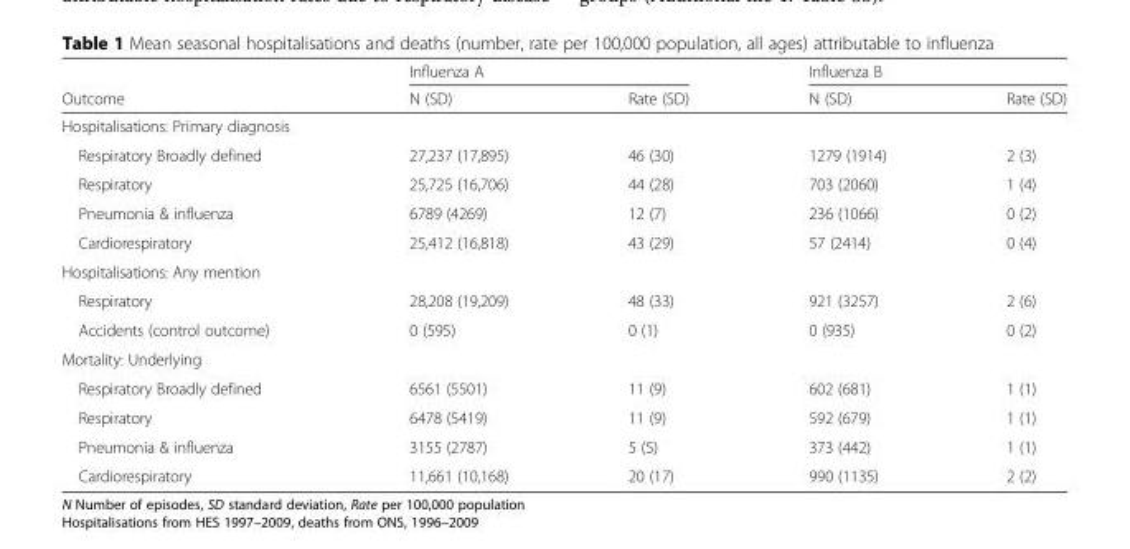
<table><thead><tr><td rowspan="2">Outcome</td><td colspan="2">Influenza A</td><td colspan="2">Influenza B</td></tr><tr><td>N (SD)</td><td>Rate (SD)</td><td>N (SD)</td><td>Rate (SD)</td></tr></thead><tbody><tr><td colspan="5">Hospitalisations: Primary diagnosis</td></tr><tr><td>Respiratory Broadly defined</td><td>27,237 (17,895)</td><td>46 (30)</td><td>1279 (1914)</td><td>2 (3)</td></tr><tr><td>Respiratory</td><td>25,725 (16,706)</td><td>44 (28)</td><td>703 (2060)</td><td>1 (4)</td></tr><tr><td>Pneumonia &amp; influenza</td><td>6789 (4269)</td><td>12 (7)</td><td>236 (1066)</td><td>0 (2)</td></tr><tr><td>Cardiorespiratory</td><td>25,412 (16,818)</td><td>43 (29)</td><td>57 (2414)</td><td>0 (4)</td></tr><tr><td colspan="5">Hospitalisations: Any mention</td></tr><tr><td>Respiratory</td><td>28,208 (19,209)</td><td>48 (33)</td><td>921 (3257)</td><td>2 (6)</td></tr><tr><td>Accidents (control outcome)</td><td>0 (595)</td><td>0 (1)</td><td>0 (935)</td><td>0 (2)</td></tr><tr><td colspan="5">Mortality: Underlying</td></tr><tr><td>Respiratory Broadly defined</td><td>6561 (5501)</td><td>11 (9)</td><td>602 (681)</td><td>1 (1)</td></tr><tr><td>Respiratory</td><td>6478 (5419)</td><td>11 (9)</td><td>592 (679)</td><td>1 (1)</td></tr><tr><td>Pneumonia &amp; influenza</td><td>3155 (2787)</td><td>5 (5)</td><td>373 (442)</td><td>1 (1)</td></tr><tr><td>Cardiorespiratory</td><td>11,661 (10,168)</td><td>20 (17)</td><td>990 (1135)</td><td>2 (2)</td></tr></tbody></table>